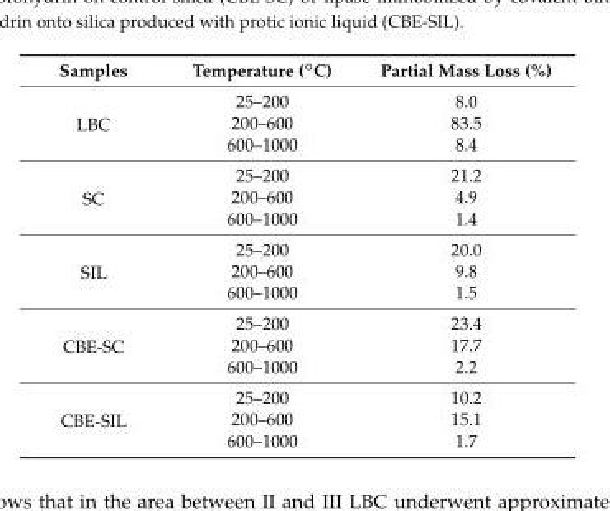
<table><thead><tr><td>Samples</td><td>Temperature (◦C)</td><td>Partial Mass Loss (%)</td></tr></thead><tbody><tr><td rowspan="3">LBC</td><td>25–200</td><td>8.0</td></tr><tr><td>200–600</td><td>83.5</td></tr><tr><td>600–1000</td><td>8.4</td></tr><tr><td rowspan="3">SC</td><td>25–200</td><td>21.2</td></tr><tr><td>200–600</td><td>4.9</td></tr><tr><td>600–1000</td><td>1.4</td></tr><tr><td rowspan="3">SIL</td><td>25–200</td><td>20.0</td></tr><tr><td>200–600</td><td>9.8</td></tr><tr><td>600–1000</td><td>1.5</td></tr><tr><td rowspan="3">CBE-SC</td><td>25–200</td><td>23.4</td></tr><tr><td>200–600</td><td>17.7</td></tr><tr><td>600–1000</td><td>2.2</td></tr><tr><td rowspan="3">CBE-SIL</td><td>25–200</td><td>10.2</td></tr><tr><td>200–600</td><td>15.1</td></tr><tr><td>600–1000</td><td>1.7</td></tr></tbody></table>